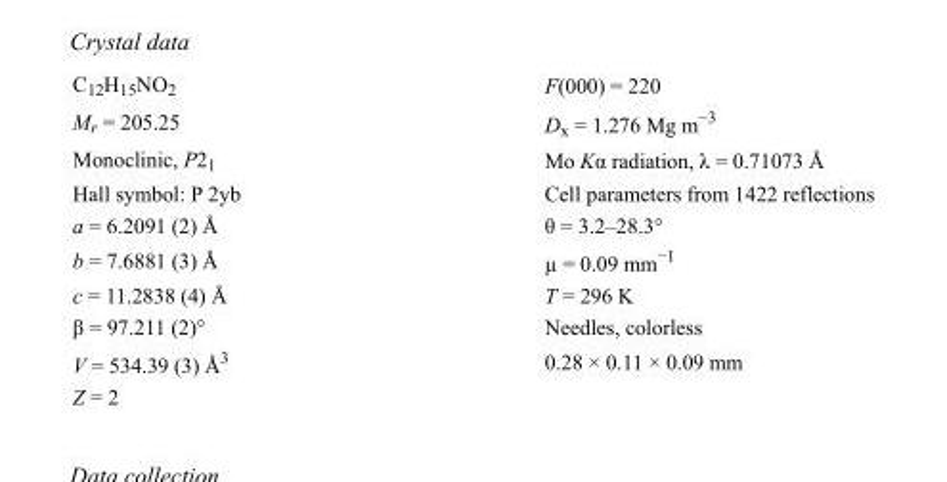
<table><tbody><tr><td>C<sub>12</sub>H<sub>15</sub>NO<sub>2</sub></td><td>F(000) = 220</td></tr><tr><td>M<sub>r</sub> = 205.25</td><td>D<sub>x</sub> = 1.276 Mg m<sup>−3</sup></td></tr><tr><td>Monoclinic, P2<sub>1</sub></td><td>Mo Kα radiation, λ = 0.71073 Å</td></tr><tr><td>Hall symbol: P 2yb</td><td>Cell parameters from 1422 reflections</td></tr><tr><td>a = 6.2091 (2) Å</td><td>θ = 3.2–28.3°</td></tr><tr><td>b = 7.6881 (3) Å</td><td>µ = 0.09 mm<sup>−1</sup></td></tr><tr><td>c = 11.2838 (4) Å</td><td>T = 296 K</td></tr><tr><td>β = 97.211 (2)°</td><td>Needles, colorless</td></tr><tr><td>V = 534.39 (3) Å<sup>3</sup></td><td>0.28 × 0.11 × 0.09 mm</td></tr><tr><td>Z = 2</td><td></td></tr></tbody></table>